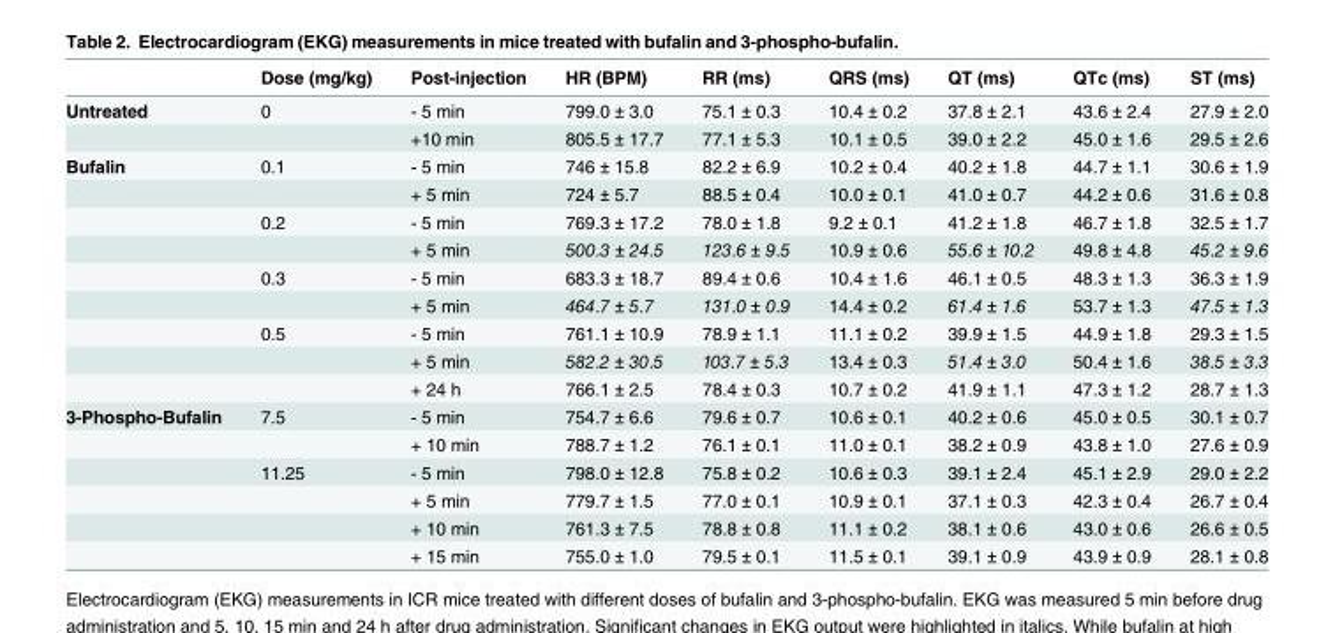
<table><thead><tr><td></td><td>Dose (mg/kg)</td><td>Post-injection</td><td>HR (BPM)</td><td>RR (ms)</td><td>QRS (ms)</td><td>QT (ms)</td><td>QTc (ms)</td><td>ST (ms)</td></tr></thead><tbody><tr><td rowspan="2">Untreated</td><td>0</td><td>- 5 min</td><td>799.0 ± 3.0</td><td>75.1 ± 0.3</td><td>10.4 ± 0.2</td><td>37.8 ± 2.1</td><td>43.6 ± 2.4</td><td>27.9 ± 2.0</td></tr><tr><td></td><td>+10 min</td><td>805.5 ± 17.7</td><td>77.1 ± 5.3</td><td>10.1 ± 0.5</td><td>39.0 ± 2.2</td><td>45.0 ± 1.6</td><td>29.5 ± 2.6</td></tr><tr><td rowspan="9">Bufalin</td><td>0.1</td><td>- 5 min</td><td>746 ± 15.8</td><td>82.2 ± 6.9</td><td>10.2 ± 0.4</td><td>40.2 ± 1.8</td><td>44.7 ± 1.1</td><td>30.6 ± 1.9</td></tr><tr><td></td><td>+ 5 min</td><td>724 ± 5.7</td><td>88.5 ± 0.4</td><td>10.0 ± 0.1</td><td>41.0 ± 0.7</td><td>44.2 ± 0.6</td><td>31.6 ± 0.8</td></tr><tr><td>0.2</td><td>- 5 min</td><td>769.3 ± 17.2</td><td>78.0 ± 1.8</td><td>9.2 ± 0.1</td><td>41.2 ± 1.8</td><td>46.7 ± 1.8</td><td>32.5 ± 1.7</td></tr><tr><td></td><td>+ 5 min</td><td>500.3 ± 24.5</td><td>123.6 ± 9.5</td><td>10.9 ± 0.6</td><td>55.6 ± 10.2</td><td>49.8 ± 4.8</td><td>45.2 ± 9.6</td></tr><tr><td>0.3</td><td>- 5 min</td><td>683.3 ± 18.7</td><td>89.4 ± 0.6</td><td>10.4 ± 1.6</td><td>46.1 ± 0.5</td><td>48.3 ± 1.3</td><td>36.3 ± 1.9</td></tr><tr><td></td><td>+ 5 min</td><td>464.7 ± 5.7</td><td>131.0 ± 0.9</td><td>14.4 ± 0.2</td><td>61.4 ± 1.6</td><td>53.7 ± 1.3</td><td>47.5 ± 1.3</td></tr><tr><td>0.5</td><td>- 5 min</td><td>761.1 ± 10.9</td><td>78.9 ± 1.1</td><td>11.1 ± 0.2</td><td>39.9 ± 1.5</td><td>44.9 ± 1.8</td><td>29.3 ± 1.5</td></tr><tr><td></td><td>+ 5 min</td><td>582.2 ± 30.5</td><td>103.7 ± 5.3</td><td>13.4 ± 0.3</td><td>51.4 ± 3.0</td><td>50.4 ± 1.6</td><td>38.5 ± 3.3</td></tr><tr><td></td><td>+ 24 h</td><td>766.1 ± 2.5</td><td>78.4 ± 0.3</td><td>10.7 ± 0.2</td><td>41.9 ± 1.1</td><td>47.3 ± 1.2</td><td>28.7 ± 1.3</td></tr><tr><td rowspan="6">3-Phospho-Bufalin</td><td>7.5</td><td>- 5 min</td><td>754.7 ± 6.6</td><td>79.6 ± 0.7</td><td>10.6 ± 0.1</td><td>40.2 ± 0.6</td><td>45.0 ± 0.5</td><td>30.1 ± 0.7</td></tr><tr><td></td><td>+ 10 min</td><td>788.7 ± 1.2</td><td>76.1 ± 0.1</td><td>11.0 ± 0.1</td><td>38.2 ± 0.9</td><td>43.8 ± 1.0</td><td>27.6 ± 0.9</td></tr><tr><td>11.25</td><td>- 5 min</td><td>798.0 ± 12.8</td><td>75.8 ± 0.2</td><td>10.6 ± 0.3</td><td>39.1 ± 2.4</td><td>45.1 ± 2.9</td><td>29.0 ± 2.2</td></tr><tr><td></td><td>+ 5 min</td><td>779.7 ± 1.5</td><td>77.0 ± 0.1</td><td>10.9 ± 0.1</td><td>37.1 ± 0.3</td><td>42.3 ± 0.4</td><td>26.7 ± 0.4</td></tr><tr><td></td><td>+ 10 min</td><td>761.3 ± 7.5</td><td>78.8 ± 0.8</td><td>11.1 ± 0.2</td><td>38.1 ± 0.6</td><td>43.0 ± 0.6</td><td>26.6 ± 0.5</td></tr><tr><td></td><td>+ 15 min</td><td>755.0 ± 1.0</td><td>79.5 ± 0.1</td><td>11.5 ± 0.1</td><td>39.1 ± 0.9</td><td>43.9 ± 0.9</td><td>28.1 ± 0.8</td></tr></tbody></table>